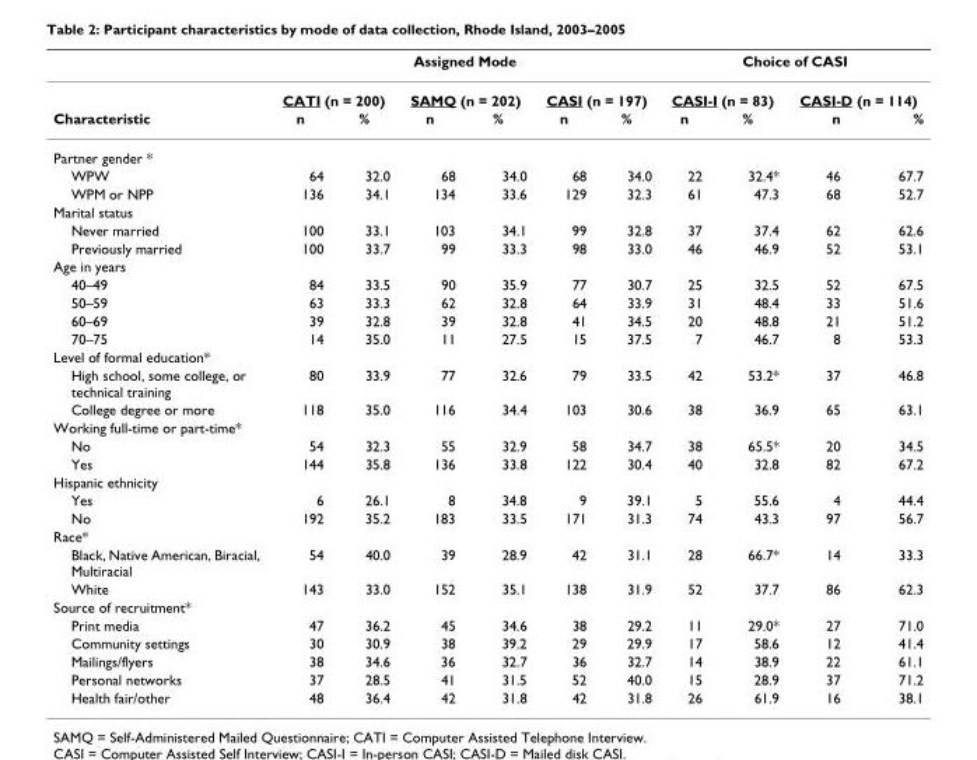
<table><thead><tr><td rowspan="3">Characteristic</td><td colspan="6">Assigned Mode</td><td colspan="4">Choice of CASI</td></tr><tr><td colspan="2">CATI (n = 200)</td><td colspan="2">SAMQ (n = 202)</td><td colspan="2">CASI (n = 197)</td><td colspan="2">CASI-I (n = 83)</td><td colspan="2">CASI-D (n = 114)</td></tr><tr><td>n</td><td>%</td><td>n</td><td>%</td><td>n</td><td>%</td><td>n</td><td>%</td><td>n</td><td>%</td></tr></thead><tbody><tr><td colspan="11">Partner gender *</td></tr><tr><td>WPW</td><td>64</td><td>32.0</td><td>68</td><td>34.0</td><td>68</td><td>34.0</td><td>22</td><td>32.4*</td><td>46</td><td>67.7</td></tr><tr><td>WPM or NPP</td><td>136</td><td>34.1</td><td>134</td><td>33.6</td><td>129</td><td>32.3</td><td>61</td><td>47.3</td><td>68</td><td>52.7</td></tr><tr><td colspan="11">Marital status</td></tr><tr><td>Never married</td><td>100</td><td>33.1</td><td>103</td><td>34.1</td><td>99</td><td>32.8</td><td>37</td><td>37.4</td><td>62</td><td>62.6</td></tr><tr><td>Previously married</td><td>100</td><td>33.7</td><td>99</td><td>33.3</td><td>98</td><td>33.0</td><td>46</td><td>46.9</td><td>52</td><td>53.1</td></tr><tr><td colspan="11">Age in years</td></tr><tr><td>40–49</td><td>84</td><td>33.5</td><td>90</td><td>35.9</td><td>77</td><td>30.7</td><td>25</td><td>32.5</td><td>52</td><td>67.5</td></tr><tr><td>50–59</td><td>63</td><td>33.3</td><td>62</td><td>32.8</td><td>64</td><td>33.9</td><td>31</td><td>48.4</td><td>33</td><td>51.6</td></tr><tr><td>60–69</td><td>39</td><td>32.8</td><td>39</td><td>32.8</td><td>41</td><td>34.5</td><td>20</td><td>48.8</td><td>21</td><td>51.2</td></tr><tr><td>70–75</td><td>14</td><td>35.0</td><td>11</td><td>27.5</td><td>15</td><td>37.5</td><td>7</td><td>46.7</td><td>8</td><td>53.3</td></tr><tr><td colspan="11">Level of formal education*</td></tr><tr><td>High school, some college, or technical training</td><td>80</td><td>33.9</td><td>77</td><td>32.6</td><td>79</td><td>33.5</td><td>42</td><td>53.2*</td><td>37</td><td>46.8</td></tr><tr><td>College degree or more</td><td>118</td><td>35.0</td><td>116</td><td>34.4</td><td>103</td><td>30.6</td><td>38</td><td>36.9</td><td>65</td><td>63.1</td></tr><tr><td colspan="11">Working full-time or part-time*</td></tr><tr><td>No</td><td>54</td><td>32.3</td><td>55</td><td>32.9</td><td>58</td><td>34.7</td><td>38</td><td>65.5*</td><td>20</td><td>34.5</td></tr><tr><td>Yes</td><td>144</td><td>35.8</td><td>136</td><td>33.8</td><td>122</td><td>30.4</td><td>40</td><td>32.8</td><td>82</td><td>67.2</td></tr><tr><td colspan="11">Hispanic ethnicity</td></tr><tr><td>Yes</td><td>6</td><td>26.1</td><td>8</td><td>34.8</td><td>9</td><td>39.1</td><td>5</td><td>55.6</td><td>4</td><td>44.4</td></tr><tr><td>No</td><td>192</td><td>35.2</td><td>183</td><td>33.5</td><td>171</td><td>31.3</td><td>74</td><td>43.3</td><td>97</td><td>56.7</td></tr><tr><td colspan="11">Race*</td></tr><tr><td>Black, Native American, Biracial, Multiracial</td><td>54</td><td>40.0</td><td>39</td><td>28.9</td><td>42</td><td>31.1</td><td>28</td><td>66.7*</td><td>14</td><td>33.3</td></tr><tr><td>White</td><td>143</td><td>33.0</td><td>152</td><td>35.1</td><td>138</td><td>31.9</td><td>52</td><td>37.7</td><td>86</td><td>62.3</td></tr><tr><td colspan="11">Source of recruitment*</td></tr><tr><td>Print media</td><td>47</td><td>36.2</td><td>45</td><td>34.6</td><td>38</td><td>29.2</td><td>11</td><td>29.0*</td><td>27</td><td>71.0</td></tr><tr><td>Community settings</td><td>30</td><td>30.9</td><td>38</td><td>39.2</td><td>29</td><td>29.9</td><td>17</td><td>58.6</td><td>12</td><td>41.4</td></tr><tr><td>Mailings/flyers</td><td>38</td><td>34.6</td><td>36</td><td>32.7</td><td>36</td><td>32.7</td><td>14</td><td>38.9</td><td>22</td><td>61.1</td></tr><tr><td>Personal networks</td><td>37</td><td>28.5</td><td>41</td><td>31.5</td><td>52</td><td>40.0</td><td>15</td><td>28.9</td><td>37</td><td>71.2</td></tr><tr><td>Health fair/other</td><td>48</td><td>36.4</td><td>42</td><td>31.8</td><td>42</td><td>31.8</td><td>26</td><td>61.9</td><td>16</td><td>38.1</td></tr></tbody></table>